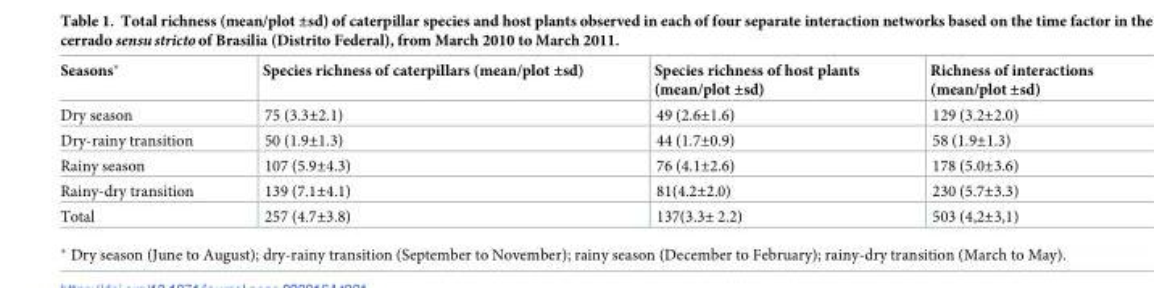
<table><thead><tr><td>Seasons*</td><td>Species richness of caterpillars (mean/plot ±sd)</td><td>Species richness of host plants (mean/plot ±sd)</td><td>Richness of interactions (mean/plot ±sd)</td></tr></thead><tbody><tr><td>Dry season</td><td>75 (3.3±2.1)</td><td>49 (2.6±1.6)</td><td>129 (3.2±2.0)</td></tr><tr><td>Dry-rainy transition</td><td>50 (1.9±1.3)</td><td>44 (1.7±0.9)</td><td>58 (1.9±1.3)</td></tr><tr><td>Rainy season</td><td>107 (5.9±4.3)</td><td>76 (4.1±2.6)</td><td>178 (5.0±3.6)</td></tr><tr><td>Rainy-dry transition</td><td>139 (7.1±4.1)</td><td>81(4.2±2.0)</td><td>230 (5.7±3.3)</td></tr><tr><td>Total</td><td>257 (4.7±3.8)</td><td>137(3.3± 2.2)</td><td>503 (4,2±3,1)</td></tr></tbody></table>